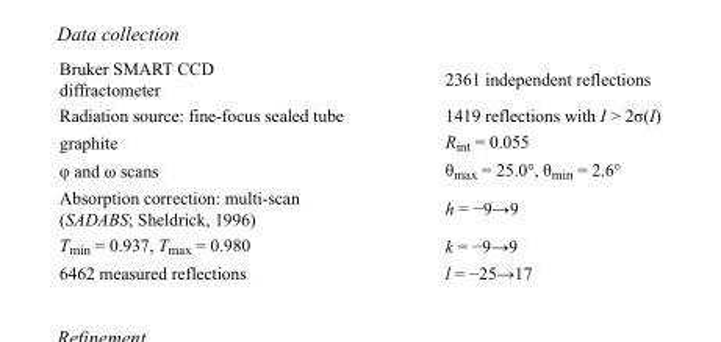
<table><tbody><tr><td>Bruker SMART CCD diffractometer</td><td>2361 independent reflections</td></tr><tr><td>Radiation source: fine-focus sealed tube</td><td>1419 reflections with I &gt; 2σ(I)</td></tr><tr><td>graphite</td><td>R<sub>int</sub> = 0.055</td></tr><tr><td>φ and ω scans</td><td>θ<sub>max</sub> = 25.0°, θ<sub>min</sub> = 2.6°</td></tr><tr><td>Absorption correction: multi-scan (SADABS; Sheldrick, 1996)</td><td>h = −9→9</td></tr><tr><td>T<sub>min</sub> = 0.937, T<sub>max</sub> = 0.980</td><td>k = −9→9</td></tr><tr><td>6462 measured reflections</td><td>l = −25→17</td></tr></tbody></table>